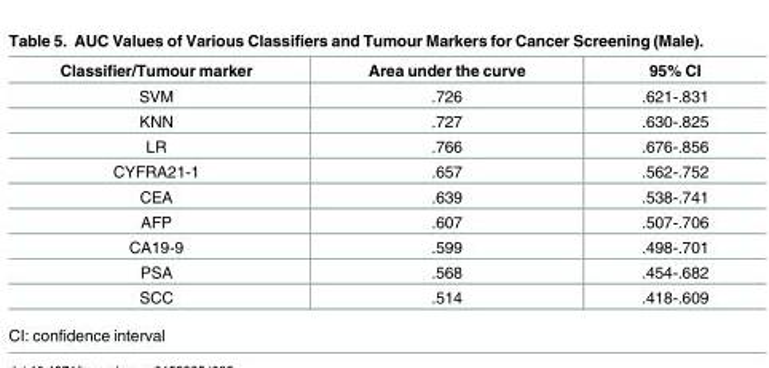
<table><thead><tr><td>Classifier/Tumour marker</td><td>Area under the curve</td><td>95% CI</td></tr></thead><tbody><tr><td>SVM</td><td>.726</td><td>.621-.831</td></tr><tr><td>KNN</td><td>.727</td><td>.630-.825</td></tr><tr><td>LR</td><td>.766</td><td>.676-.856</td></tr><tr><td>CYFRA21-1</td><td>.657</td><td>.562-.752</td></tr><tr><td>CEA</td><td>.639</td><td>.538-.741</td></tr><tr><td>AFP</td><td>.607</td><td>.507-.706</td></tr><tr><td>CA19-9</td><td>.599</td><td>.498-.701</td></tr><tr><td>PSA</td><td>.568</td><td>.454-.682</td></tr><tr><td>SCC</td><td>.514</td><td>.418-.609</td></tr></tbody></table>